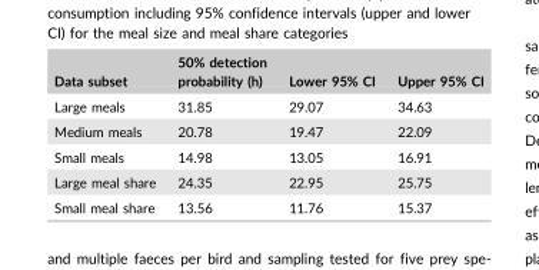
<table><thead><tr><td>Data subset</td><td>50% detection probability (h)</td><td>Lower 95% CI</td><td>Upper 95% CI</td></tr></thead><tbody><tr><td>Large meals</td><td>31.85</td><td>29.07</td><td>34.63</td></tr><tr><td>Medium meals</td><td>20.78</td><td>19.47</td><td>22.09</td></tr><tr><td>Small meals</td><td>14.98</td><td>13.05</td><td>16.91</td></tr><tr><td>Large meal share</td><td>24.35</td><td>22.95</td><td>25.75</td></tr><tr><td>Small meal share</td><td>13.56</td><td>11.76</td><td>15.37</td></tr></tbody></table>